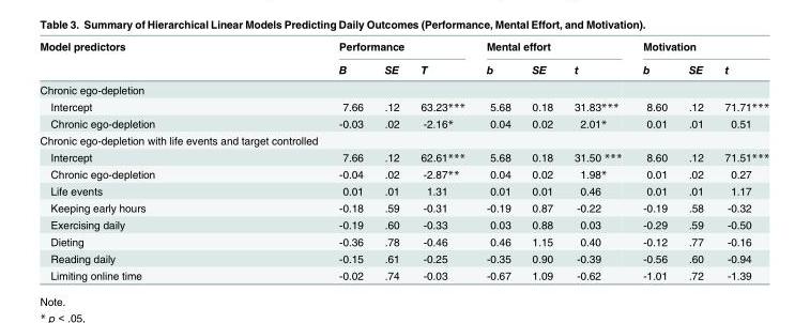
<table><thead><tr><td rowspan="2">Model predictors</td><td colspan="3">Performance</td><td colspan="3">Mental effort</td><td colspan="3">Motivation</td></tr><tr><td>B</td><td>SE</td><td>T</td><td>b</td><td>SE</td><td>t</td><td>b</td><td>SE</td><td>t</td></tr></thead><tbody><tr><td colspan="10">Chronic ego-depletion</td></tr><tr><td>Intercept</td><td>7.66</td><td>.12</td><td>63.23***</td><td>5.68</td><td>0.18</td><td>31.83***</td><td>8.60</td><td>.12</td><td>71.71***</td></tr><tr><td>Chronic ego-depletion</td><td>-0.03</td><td>.02</td><td>-2.16*</td><td>0.04</td><td>0.02</td><td>2.01*</td><td>0.01</td><td>.01</td><td>0.51</td></tr><tr><td colspan="10">Chronic ego-depletion with life events and target controlled</td></tr><tr><td>Intercept</td><td>7.66</td><td>.12</td><td>62.61***</td><td>5.68</td><td>0.18</td><td>31.50 ***</td><td>8.60</td><td>.12</td><td>71.51***</td></tr><tr><td>Chronic ego-depletion</td><td>-0.04</td><td>.02</td><td>-2.87**</td><td>0.04</td><td>0.02</td><td>1.98*</td><td>0.01</td><td>.02</td><td>0.27</td></tr><tr><td>Life events</td><td>0.01</td><td>.01</td><td>1.31</td><td>0.01</td><td>0.01</td><td>0.46</td><td>0.01</td><td>.01</td><td>1.17</td></tr><tr><td>Keeping early hours</td><td>-0.18</td><td>.59</td><td>-0.31</td><td>-0.19</td><td>0.87</td><td>-0.22</td><td>-0.19</td><td>.58</td><td>-0.32</td></tr><tr><td>Exercising daily</td><td>-0.19</td><td>.60</td><td>-0.33</td><td>0.03</td><td>0.88</td><td>0.03</td><td>-0.29</td><td>.59</td><td>-0.50</td></tr><tr><td>Dieting</td><td>-0.36</td><td>.78</td><td>-0.46</td><td>0.46</td><td>1.15</td><td>0.40</td><td>-0.12</td><td>.77</td><td>-0.16</td></tr><tr><td>Reading daily</td><td>-0.15</td><td>.61</td><td>-0.25</td><td>-0.35</td><td>0.90</td><td>-0.39</td><td>-0.56</td><td>.60</td><td>-0.94</td></tr><tr><td>Limiting online time</td><td>-0.02</td><td>.74</td><td>-0.03</td><td>-0.67</td><td>1.09</td><td>-0.62</td><td>-1.01</td><td>.72</td><td>-1.39</td></tr></tbody></table>